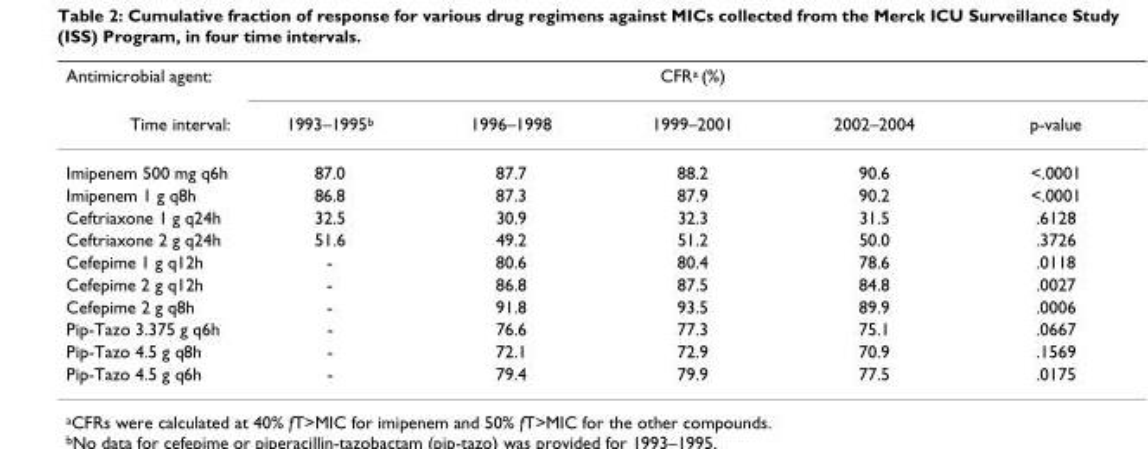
<table><thead><tr><td rowspan="2">Antimicrobial agent: Time interval:</td><td colspan="5">CFR<sup>a</sup> (%)</td></tr><tr><td>1993–1995<sup>b</sup></td><td>1996–1998</td><td>1999–2001</td><td>2002–2004</td><td>p-value</td></tr></thead><tbody><tr><td>Imipenem 500 mg q6h</td><td>87.0</td><td>87.7</td><td>88.2</td><td>90.6</td><td>&lt;.0001</td></tr><tr><td>Imipenem 1 g q8h</td><td>86.8</td><td>87.3</td><td>87.9</td><td>90.2</td><td>&lt;.0001</td></tr><tr><td>Ceftriaxone 1 g q24h</td><td>32.5</td><td>30.9</td><td>32.3</td><td>31.5</td><td>.6128</td></tr><tr><td>Ceftriaxone 2 g q24h</td><td>51.6</td><td>49.2</td><td>51.2</td><td>50.0</td><td>.3726</td></tr><tr><td>Cefepime 1 g q12h</td><td>-</td><td>80.6</td><td>80.4</td><td>78.6</td><td>.0118</td></tr><tr><td>Cefepime 2 g q12h</td><td>-</td><td>86.8</td><td>87.5</td><td>84.8</td><td>.0027</td></tr><tr><td>Cefepime 2 g q8h</td><td>-</td><td>91.8</td><td>93.5</td><td>89.9</td><td>.0006</td></tr><tr><td>Pip-Tazo 3.375 g q6h</td><td>-</td><td>76.6</td><td>77.3</td><td>75.1</td><td>.0667</td></tr><tr><td>Pip-Tazo 4.5 g q8h</td><td>-</td><td>72.1</td><td>72.9</td><td>70.9</td><td>.1569</td></tr><tr><td>Pip-Tazo 4.5 g q6h</td><td>-</td><td>79.4</td><td>79.9</td><td>77.5</td><td>.0175</td></tr></tbody></table>